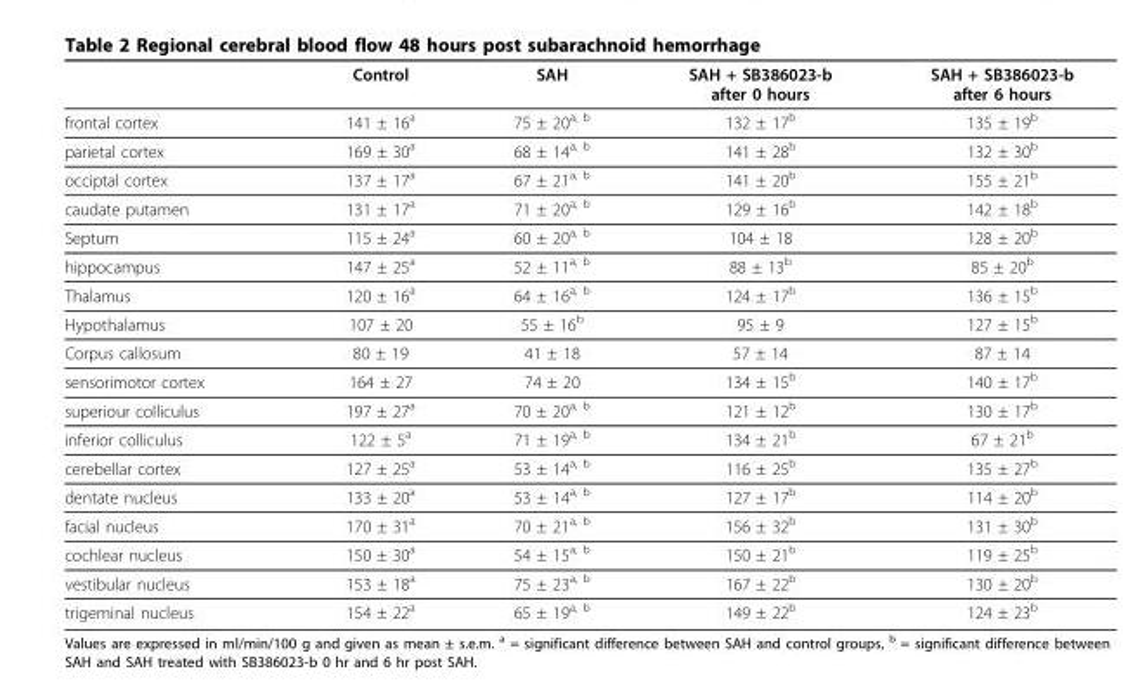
<table><thead><tr><td></td><td>Control</td><td>SAH</td><td>SAH + SB386023-b after 0 hours</td><td>SAH + SB386023-b after 6 hours</td></tr></thead><tbody><tr><td>frontal cortex</td><td>141 ± 16<sup>a</sup></td><td>75 ± 20<sup>a, b</sup></td><td>132 ± 17<sup>b</sup></td><td>135 ± 19<sup>b</sup></td></tr><tr><td>parietal cortex</td><td>169 ± 30<sup>a</sup></td><td>68 ± 14<sup>a, b</sup></td><td>141 ± 28<sup>b</sup></td><td>132 ± 30<sup>b</sup></td></tr><tr><td>occiptal cortex</td><td>137 ± 17<sup>a</sup></td><td>67 ± 21<sup>a, b</sup></td><td>141 ± 20<sup>b</sup></td><td>155 ± 21<sup>b</sup></td></tr><tr><td>caudate putamen</td><td>131 ± 17<sup>a</sup></td><td>71 ± 20<sup>a, b</sup></td><td>129 ± 16<sup>b</sup></td><td>142 ± 18<sup>b</sup></td></tr><tr><td>Septum</td><td>115 ± 24<sup>a</sup></td><td>60 ± 20<sup>a, b</sup></td><td>104 ± 18</td><td>128 ± 20<sup>b</sup></td></tr><tr><td>hippocampus</td><td>147 ± 25<sup>a</sup></td><td>52 ± 11<sup>a, b</sup></td><td>88 ± 13<sup>b</sup></td><td>85 ± 20<sup>b</sup></td></tr><tr><td>Thalamus</td><td>120 ± 16<sup>a</sup></td><td>64 ± 16<sup>a, b</sup></td><td>124 ± 17<sup>b</sup></td><td>136 ± 15<sup>b</sup></td></tr><tr><td>Hypothalamus</td><td>107 ± 20</td><td>55 ± 16<sup>b</sup></td><td>95 ± 9</td><td>127 ± 15<sup>b</sup></td></tr><tr><td>Corpus callosum</td><td>80 ± 19</td><td>41 ± 18</td><td>57 ± 14</td><td>87 ± 14</td></tr><tr><td>sensorimotor cortex</td><td>164 ± 27</td><td>74 ± 20</td><td>134 ± 15<sup>b</sup></td><td>140 ± 17<sup>b</sup></td></tr><tr><td>superiour colliculus</td><td>197 ± 27<sup>a</sup></td><td>70 ± 20<sup>a, b</sup></td><td>121 ± 12<sup>b</sup></td><td>130 ± 17<sup>b</sup></td></tr><tr><td>inferior colliculus</td><td>122 ± 5<sup>a</sup></td><td>71 ± 19<sup>a, b</sup></td><td>134 ± 21<sup>b</sup></td><td>67 ± 21<sup>b</sup></td></tr><tr><td>cerebellar cortex</td><td>127 ± 25<sup>a</sup></td><td>53 ± 14<sup>a, b</sup></td><td>116 ± 25<sup>b</sup></td><td>135 ± 27<sup>b</sup></td></tr><tr><td>dentate nucleus</td><td>133 ± 20<sup>a</sup></td><td>53 ± 14<sup>a, b</sup></td><td>127 ± 17<sup>b</sup></td><td>114 ± 20<sup>b</sup></td></tr><tr><td>facial nucleus</td><td>170 ± 31<sup>a</sup></td><td>70 ± 21<sup>a, b</sup></td><td>156 ± 32<sup>b</sup></td><td>131 ± 30<sup>b</sup></td></tr><tr><td>cochlear nucleus</td><td>150 ± 30<sup>a</sup></td><td>54 ± 15<sup>a, b</sup></td><td>150 ± 21<sup>b</sup></td><td>119 ± 25<sup>b</sup></td></tr><tr><td>vestibular nucleus</td><td>153 ± 18<sup>a</sup></td><td>75 ± 23<sup>a, b</sup></td><td>167 ± 22<sup>b</sup></td><td>130 ± 20<sup>b</sup></td></tr><tr><td>trigeminal nucleus</td><td>154 ± 22<sup>a</sup></td><td>65 ± 19<sup>a, b</sup></td><td>149 ± 22<sup>b</sup></td><td>124 ± 23<sup>b</sup></td></tr></tbody></table>